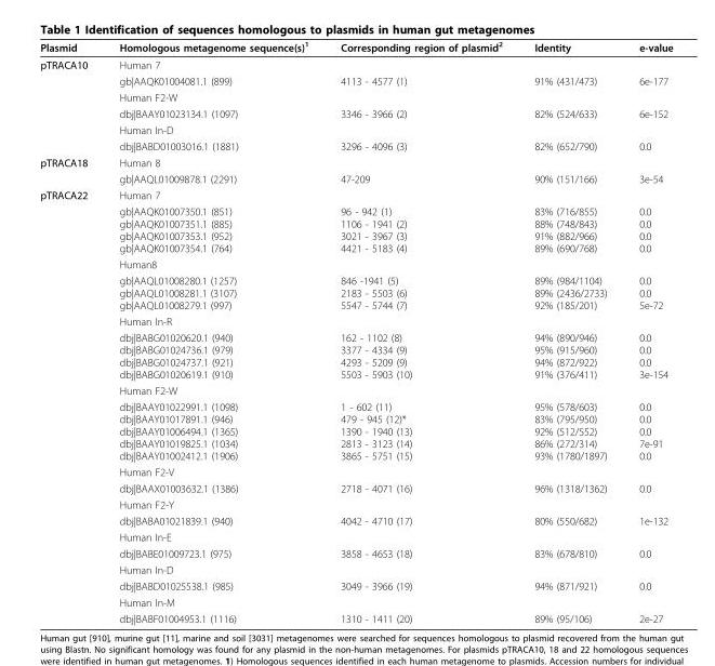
<table><thead><tr><td>Plasmid</td><td>Homologous metagenome sequence(s)<sup>1</sup></td><td>Corresponding region of plasmid<sup>2</sup></td><td>Identity</td><td>e-value</td></tr></thead><tbody><tr><td rowspan="6">pTRACA10</td><td>Human 7</td><td></td><td></td><td></td></tr><tr><td>gb|AAQK01004081.1 (899)</td><td>4113 - 4577 (1)</td><td>91% (431/473)</td><td>6e-177</td></tr><tr><td>Human F2-W</td><td></td><td></td><td></td></tr><tr><td>dbj|BAAY01023134.1 (1097)</td><td>3346 - 3966 (2)</td><td>82% (524/633)</td><td>6e-152</td></tr><tr><td>Human In-D</td><td></td><td></td><td></td></tr><tr><td>dbj|BABD01003016.1 (1881)</td><td>3296 - 4096 (3)</td><td>82% (652/790)</td><td>0.0</td></tr><tr><td rowspan="2">pTRACA18</td><td>Human 8</td><td></td><td></td><td></td></tr><tr><td>gb|AAQL01009878.1 (2291)</td><td>47-209</td><td>90% (151/166)</td><td>3e-54</td></tr><tr><td rowspan="18">pTRACA22</td><td>Human 7</td><td></td><td></td><td></td></tr><tr><td>gb|AAQK01007350.1 (851) gb|AAQK01007351.1 (885) gb|AAQK01007353.1 (952) gb|AAQK01007354.1 (764)</td><td>96 - 942 (1) 1106 - 1941 (2) 3021 - 3967 (3) 4421 - 5183 (4)</td><td>83% (716/855) 88% (748/843) 91% (882/966) 89% (690/768)</td><td>0.0 0.0 0.0 0.0</td></tr><tr><td>Human8</td><td></td><td></td><td></td></tr><tr><td>gb|AAQL01008280.1 (1257) gb|AAQL01008281.1 (3107) gb|AAQL01008279.1 (997)</td><td>846 -1941 (5) 2183 - 5503 (6) 5547 - 5744 (7)</td><td>89% (984/1104) 89% (2436/2733) 92% (185/201)</td><td>0.0 0.0 5e-72</td></tr><tr><td>Human In-R</td><td></td><td></td><td></td></tr><tr><td>dbj|BABG01020620.1 (940) dbj|BABG01024736.1 (979) dbj|BABG01024737.1 (921) dbj|BABG01020619.1 (910)</td><td>162 - 1102 (8) 3377 - 4334 (9) 4293 - 5209 (9) 5503 - 5903 (10)</td><td>94% (890/946) 95% (915/960) 94% (872/922) 91% (376/411)</td><td>0.0 0.0 0.0 3e-154</td></tr><tr><td>Human F2-W</td><td></td><td></td><td></td></tr><tr><td>dbj|BAAY01022991.1 (1098) dbj|BAAY01017891.1 (946) dbj|BAAY01006494.1 (1365) dbj|BAAY01019825.1 (1034) dbj|BAAY01002412.1 (1906)</td><td>1 - 602 (11) 479 - 945 (12)* 1390 - 1940 (13) 2813 - 3123 (14) 3865 - 5751 (15)</td><td>95% (578/603) 83% (795/950) 92% (512/552) 86% (272/314) 93% (1780/1897)</td><td>0.0 0.0 0.0 7e-91 0.0</td></tr><tr><td>Human F2-V</td><td></td><td></td><td></td></tr><tr><td>dbj|BAAX01003632.1 (1386)</td><td>2718 - 4071 (16)</td><td>96% (1318/1362)</td><td>0.0</td></tr><tr><td>Human F2-Y</td><td></td><td></td><td></td></tr><tr><td>dbj|BABA01021839.1 (940)</td><td>4042 - 4710 (17)</td><td>80% (550/682)</td><td>1e-132</td></tr><tr><td>Human In-E</td><td></td><td></td><td></td></tr><tr><td>dbj|BABE01009723.1 (975)</td><td>3858 - 4653 (18)</td><td>83% (678/810)</td><td>0.0</td></tr><tr><td>Human In-D</td><td></td><td></td><td></td></tr><tr><td>dbj|BABD01025538.1 (985)</td><td>3049 - 3966 (19)</td><td>94% (871/921)</td><td>0.0</td></tr><tr><td>Human In-M</td><td></td><td></td><td></td></tr><tr><td>dbj|BABF01004953.1 (1116)</td><td>1310 - 1411 (20)</td><td>89% (95/106)</td><td>2e-27</td></tr></tbody></table>